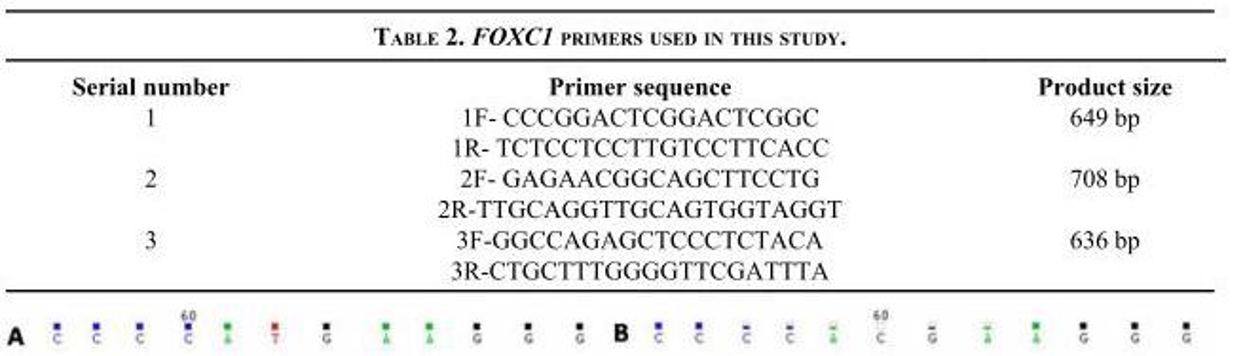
<table><thead><tr><td>Serial number</td><td>Primer sequence</td><td>Product size</td></tr></thead><tbody><tr><td rowspan="2">1</td><td>1F- CCCGGACTCGGACTCGGC</td><td>649 bp</td></tr><tr><td>1R- TCTCCTCCTTGTCCTTCACC</td><td></td></tr><tr><td rowspan="2">2</td><td>2F- GAGAACGGCAGCTTCCTG</td><td>708 bp</td></tr><tr><td>2R-TTGCAGGTTGCAGTGGTAGGT</td><td></td></tr><tr><td rowspan="2">3</td><td>3F-GGCCAGAGCTCCCTCTACA</td><td>636 bp</td></tr><tr><td>3R-CTGCTTTGGGGTTCGATTTA</td><td></td></tr></tbody></table>